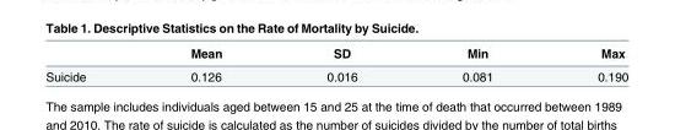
<table><thead><tr><td></td><td>Mean</td><td>SD</td><td>Min</td><td>Max</td></tr></thead><tbody><tr><td>Suicide</td><td>0.126</td><td>0.016</td><td>0.081</td><td>0.190</td></tr></tbody></table>